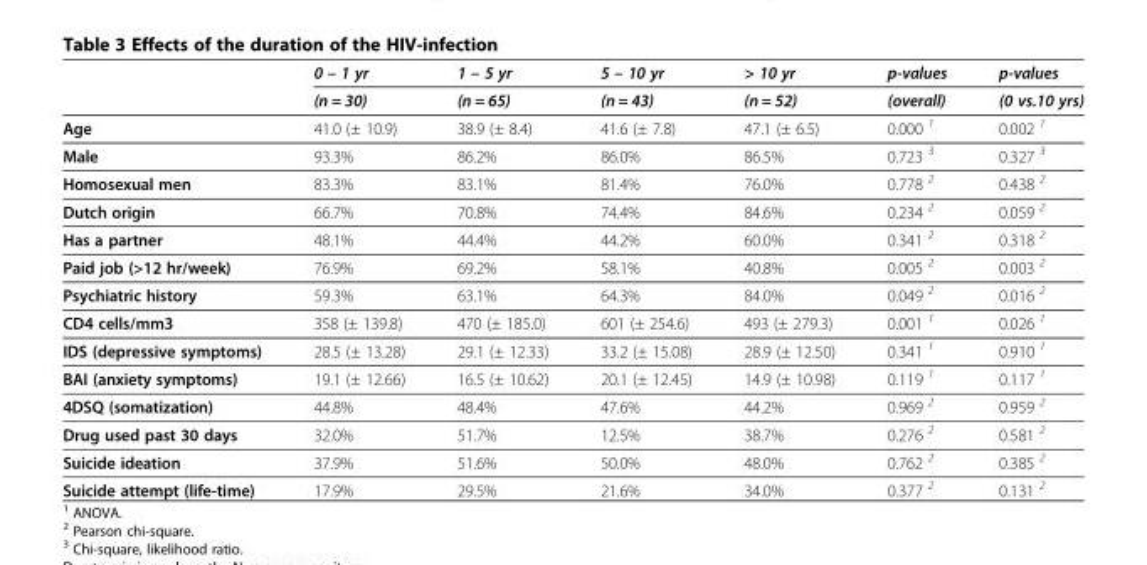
<table><thead><tr><td rowspan="2"></td><td rowspan="2">0 – 1 yr (n = 30)</td><td rowspan="2">1 – 5 yr (n = 65)</td><td rowspan="2">5 – 10 yr (n = 43)</td><td rowspan="2">&gt; 10 yr (n = 52)</td><td rowspan="2">p-values (overall)</td><td rowspan="2">p-values (0 vs.10 yrs)</td></tr><tr></tr></thead><tbody><tr><td>Age</td><td>41.0 (± 10.9)</td><td>38.9 (± 8.4)</td><td>41.6 (± 7.8)</td><td>47.1 (± 6.5)</td><td>0.000 <sup>1</sup></td><td>0.002 <sup>1</sup></td></tr><tr><td>Male</td><td>93.3%</td><td>86.2%</td><td>86.0%</td><td>86.5%</td><td>0.723 <sup>3</sup></td><td>0.327 <sup>3</sup></td></tr><tr><td>Homosexual men</td><td>83.3%</td><td>83.1%</td><td>81.4%</td><td>76.0%</td><td>0.778 <sup>2</sup></td><td>0.438 <sup>2</sup></td></tr><tr><td>Dutch origin</td><td>66.7%</td><td>70.8%</td><td>74.4%</td><td>84.6%</td><td>0.234 <sup>2</sup></td><td>0.059 <sup>2</sup></td></tr><tr><td>Has a partner</td><td>48.1%</td><td>44.4%</td><td>44.2%</td><td>60.0%</td><td>0.341 <sup>2</sup></td><td>0.318 <sup>2</sup></td></tr><tr><td>Paid job (&gt;12 hr/week)</td><td>76.9%</td><td>69.2%</td><td>58.1%</td><td>40.8%</td><td>0.005 <sup>2</sup></td><td>0.003 <sup>2</sup></td></tr><tr><td>Psychiatric history</td><td>59.3%</td><td>63.1%</td><td>64.3%</td><td>84.0%</td><td>0.049 <sup>2</sup></td><td>0.016 <sup>2</sup></td></tr><tr><td>CD4 cells/mm3</td><td>358 (± 139.8)</td><td>470 (± 185.0)</td><td>601 (± 254.6)</td><td>493 (± 279.3)</td><td>0.001 <sup>1</sup></td><td>0.026 <sup>1</sup></td></tr><tr><td>IDS (depressive symptoms)</td><td>28.5 (± 13.28)</td><td>29.1 (± 12.33)</td><td>33.2 (± 15.08)</td><td>28.9 (± 12.50)</td><td>0.341 <sup>1</sup></td><td>0.910 <sup>1</sup></td></tr><tr><td>BAI (anxiety symptoms)</td><td>19.1 (± 12.66)</td><td>16.5 (± 10.62)</td><td>20.1 (± 12.45)</td><td>14.9 (± 10.98)</td><td>0.119 <sup>1</sup></td><td>0.117 <sup>1</sup></td></tr><tr><td>4DSQ (somatization)</td><td>44.8%</td><td>48.4%</td><td>47.6%</td><td>44.2%</td><td>0.969 <sup>2</sup></td><td>0.959 <sup>2</sup></td></tr><tr><td>Drug used past 30 days</td><td>32.0%</td><td>51.7%</td><td>12.5%</td><td>38.7%</td><td>0.276 <sup>2</sup></td><td>0.581 <sup>2</sup></td></tr><tr><td>Suicide ideation</td><td>37.9%</td><td>51.6%</td><td>50.0%</td><td>48.0%</td><td>0.762 <sup>2</sup></td><td>0.385 <sup>2</sup></td></tr><tr><td>Suicide attempt (life-time)</td><td>17.9%</td><td>29.5%</td><td>21.6%</td><td>34.0%</td><td>0.377 <sup>2</sup></td><td>0.131 <sup>2</sup></td></tr></tbody></table>